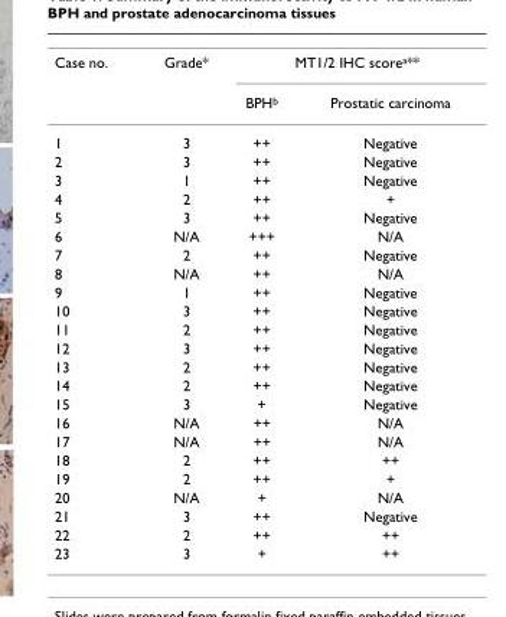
<table><tbody><tr><td rowspan="2">Case no.</td><td>Grade*</td><td colspan="2">MT1/2 IHC score<sup>a</sup>**</td></tr><tr><td></td><td>BPH<sup>b</sup></td><td>Prostatic carcinoma</td></tr><tr><td>1</td><td>3</td><td>++</td><td>Negative</td></tr><tr><td>2</td><td>3</td><td>++</td><td>Negative</td></tr><tr><td>3</td><td>1</td><td>++</td><td>Negative</td></tr><tr><td>4</td><td>2</td><td>++</td><td>+</td></tr><tr><td>5</td><td>3</td><td>++</td><td>Negative</td></tr><tr><td>6</td><td>N/A</td><td>+++</td><td>N/A</td></tr><tr><td>7</td><td>2</td><td>++</td><td>Negative</td></tr><tr><td>8</td><td>N/A</td><td>++</td><td>N/A</td></tr><tr><td>9</td><td>1</td><td>++</td><td>Negative</td></tr><tr><td>10</td><td>3</td><td>++</td><td>Negative</td></tr><tr><td>11</td><td>2</td><td>++</td><td>Negative</td></tr><tr><td>12</td><td>3</td><td>++</td><td>Negative</td></tr><tr><td>13</td><td>2</td><td>++</td><td>Negative</td></tr><tr><td>14</td><td>2</td><td>++</td><td>Negative</td></tr><tr><td>15</td><td>3</td><td>+</td><td>Negative</td></tr><tr><td>16</td><td>N/A</td><td>++</td><td>N/A</td></tr><tr><td>17</td><td>N/A</td><td>++</td><td>N/A</td></tr><tr><td>18</td><td>2</td><td>++</td><td>++</td></tr><tr><td>19</td><td>2</td><td>++</td><td>+</td></tr><tr><td>20</td><td>N/A</td><td>+</td><td>N/A</td></tr><tr><td>21</td><td>3</td><td>++</td><td>Negative</td></tr><tr><td>22</td><td>2</td><td>++</td><td>++</td></tr><tr><td>23</td><td>3</td><td>+</td><td>++</td></tr></tbody></table>